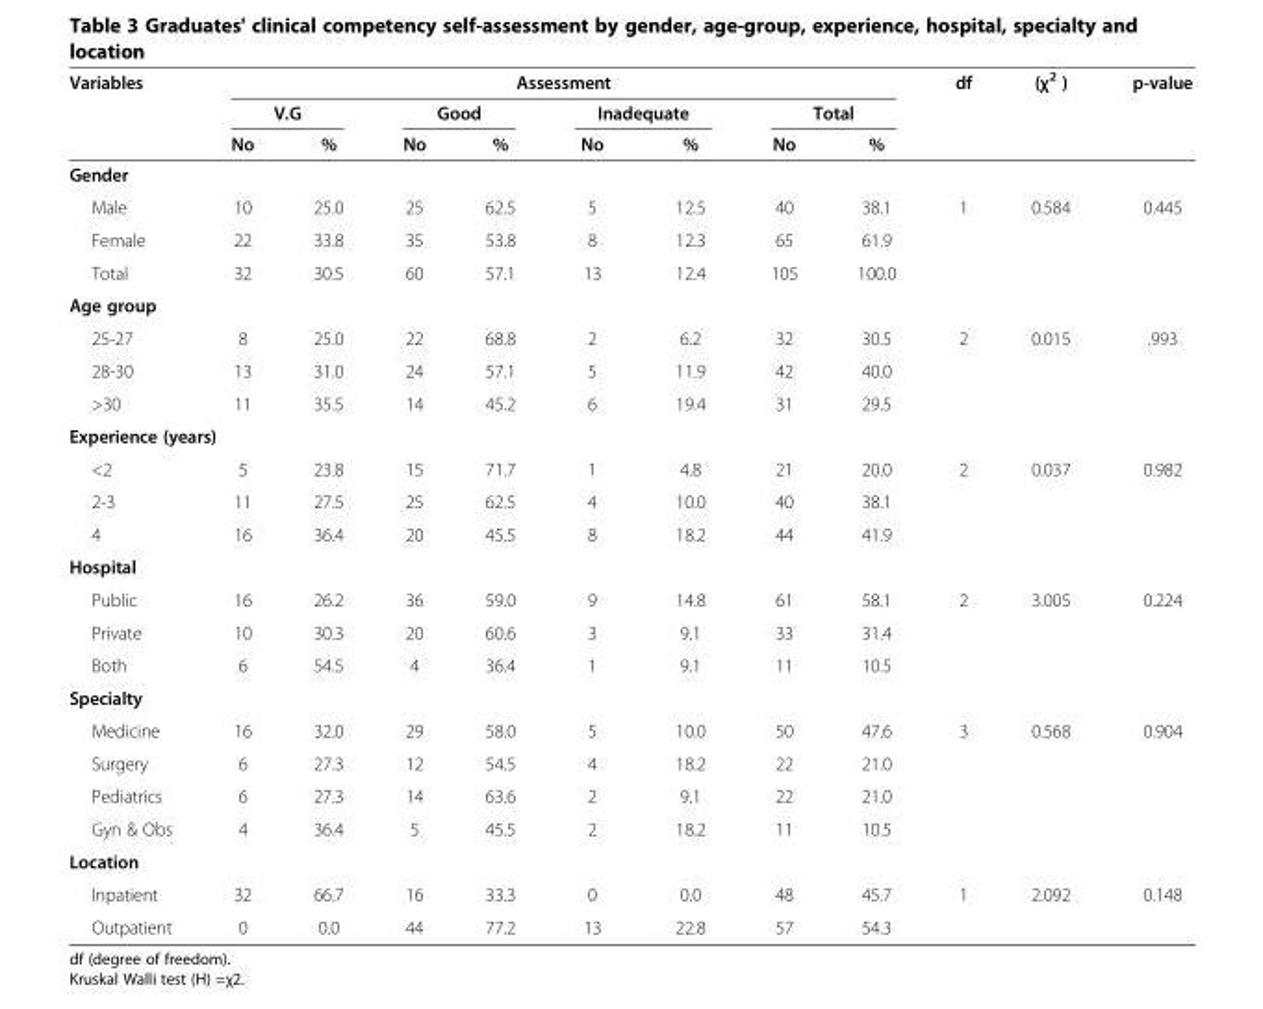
<table><thead><tr><td rowspan="3">Variables</td><td colspan="8">Assessment</td><td rowspan="3">df</td><td rowspan="3">(χ<sup>2</sup> )</td><td rowspan="3">p-value</td></tr><tr><td colspan="2">V.G</td><td colspan="2">Good</td><td colspan="2">Inadequate</td><td colspan="2">Total</td></tr><tr><td>No</td><td>%</td><td>No</td><td>%</td><td>No</td><td>%</td><td>No</td><td>%</td></tr></thead><tbody><tr><td colspan="12">Gender</td></tr><tr><td>Male</td><td>10</td><td>25.0</td><td>25</td><td>62.5</td><td>5</td><td>12.5</td><td>40</td><td>38.1</td><td>1</td><td>0.584</td><td>0.445</td></tr><tr><td>Female</td><td>22</td><td>33.8</td><td>35</td><td>53.8</td><td>8</td><td>12.3</td><td>65</td><td>61.9</td><td></td><td></td><td></td></tr><tr><td>Total</td><td>32</td><td>30.5</td><td>60</td><td>57.1</td><td>13</td><td>12.4</td><td>105</td><td>100.0</td><td></td><td></td><td></td></tr><tr><td colspan="12">Age group</td></tr><tr><td>25-27</td><td>8</td><td>25.0</td><td>22</td><td>68.8</td><td>2</td><td>6.2</td><td>32</td><td>30.5</td><td>2</td><td>0.015</td><td>.993</td></tr><tr><td>28-30</td><td>13</td><td>31.0</td><td>24</td><td>57.1</td><td>5</td><td>11.9</td><td>42</td><td>40.0</td><td></td><td></td><td></td></tr><tr><td>&gt;30</td><td>11</td><td>35.5</td><td>14</td><td>45.2</td><td>6</td><td>19.4</td><td>31</td><td>29.5</td><td></td><td></td><td></td></tr><tr><td colspan="12">Experience (years)</td></tr><tr><td>&lt;2</td><td>5</td><td>23.8</td><td>15</td><td>71.7</td><td>1</td><td>4.8</td><td>21</td><td>20.0</td><td>2</td><td>0.037</td><td>0.982</td></tr><tr><td>2-3</td><td>11</td><td>27.5</td><td>25</td><td>62.5</td><td>4</td><td>10.0</td><td>40</td><td>38.1</td><td></td><td></td><td></td></tr><tr><td>4</td><td>16</td><td>36.4</td><td>20</td><td>45.5</td><td>8</td><td>18.2</td><td>44</td><td>41.9</td><td></td><td></td><td></td></tr><tr><td colspan="12">Hospital</td></tr><tr><td>Public</td><td>16</td><td>26.2</td><td>36</td><td>59.0</td><td>9</td><td>14.8</td><td>61</td><td>58.1</td><td>2</td><td>3.005</td><td>0.224</td></tr><tr><td>Private</td><td>10</td><td>30.3</td><td>20</td><td>60.6</td><td>3</td><td>9.1</td><td>33</td><td>31.4</td><td></td><td></td><td></td></tr><tr><td>Both</td><td>6</td><td>54.5</td><td>4</td><td>36.4</td><td>1</td><td>9.1</td><td>11</td><td>10.5</td><td></td><td></td><td></td></tr><tr><td colspan="12">Specialty</td></tr><tr><td>Medicine</td><td>16</td><td>32.0</td><td>29</td><td>58.0</td><td>5</td><td>10.0</td><td>50</td><td>47.6</td><td>3</td><td>0.568</td><td>0.904</td></tr><tr><td>Surgery</td><td>6</td><td>27.3</td><td>12</td><td>54.5</td><td>4</td><td>18.2</td><td>22</td><td>21.0</td><td></td><td></td><td></td></tr><tr><td>Pediatrics</td><td>6</td><td>27.3</td><td>14</td><td>63.6</td><td>2</td><td>9.1</td><td>22</td><td>21.0</td><td></td><td></td><td></td></tr><tr><td>Gyn &amp; Obs</td><td>4</td><td>36.4</td><td>5</td><td>45.5</td><td>2</td><td>18.2</td><td>11</td><td>10.5</td><td></td><td></td><td></td></tr><tr><td colspan="12">Location</td></tr><tr><td>Inpatient</td><td>32</td><td>66.7</td><td>16</td><td>33.3</td><td>0</td><td>0.0</td><td>48</td><td>45.7</td><td>1</td><td>2.092</td><td>0.148</td></tr><tr><td>Outpatient</td><td>0</td><td>0.0</td><td>44</td><td>77.2</td><td>13</td><td>22.8</td><td>57</td><td>54.3</td><td></td><td></td><td></td></tr></tbody></table>